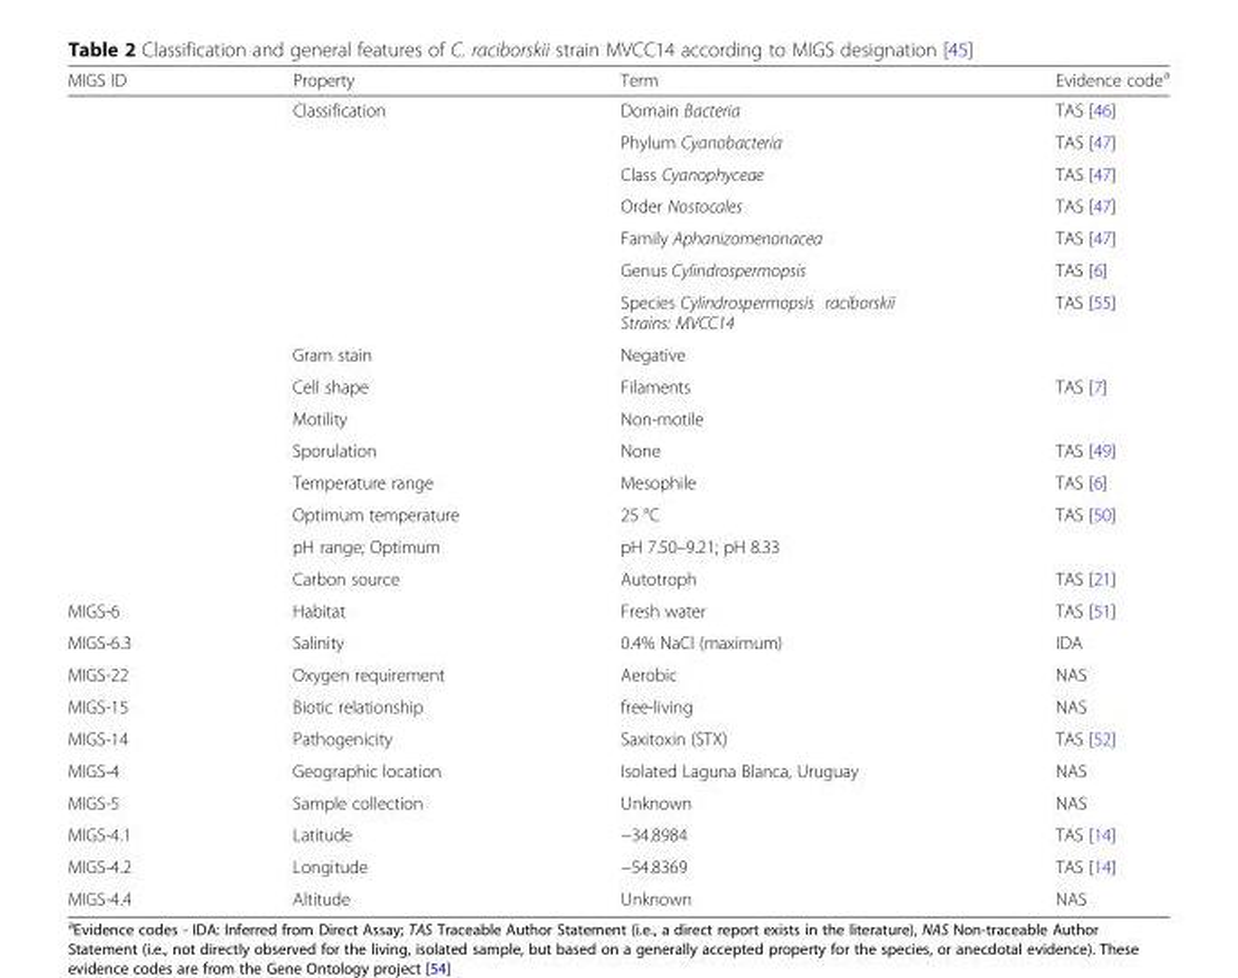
<table><thead><tr><td>MIGS ID</td><td>Property</td><td>Term</td><td>Evidence code<sup>a</sup></td></tr></thead><tbody><tr><td rowspan="15"></td><td rowspan="7">Classification</td><td>Domain Bacteria</td><td>TAS [46]</td></tr><tr><td>Phylum Cyanobacteria</td><td>TAS [47]</td></tr><tr><td>Class Cyanophyceae</td><td>TAS [47]</td></tr><tr><td>Order Nostocales</td><td>TAS [47]</td></tr><tr><td>Family Aphanizomenonacea</td><td>TAS [47]</td></tr><tr><td>Genus Cylindrospermopsis</td><td>TAS [6]</td></tr><tr><td>Species Cylindrospermopsis raciborskii Strains: MVCC14</td><td>TAS [55]</td></tr><tr><td>Gram stain</td><td>Negative</td><td></td></tr><tr><td>Cell shape</td><td>Filaments</td><td>TAS [7]</td></tr><tr><td>Motility</td><td>Non-motile</td><td></td></tr><tr><td>Sporulation</td><td>None</td><td>TAS [49]</td></tr><tr><td>Temperature range</td><td>Mesophile</td><td>TAS [6]</td></tr><tr><td>Optimum temperature</td><td>25 °C</td><td>TAS [50]</td></tr><tr><td>pH range; Optimum</td><td>pH 7.50–9.21; pH 8.33</td><td></td></tr><tr><td>Carbon source</td><td>Autotroph</td><td>TAS [21]</td></tr><tr><td>MIGS-6</td><td>Habitat</td><td>Fresh water</td><td>TAS [51]</td></tr><tr><td>MIGS-6.3</td><td>Salinity</td><td>0.4% NaCl (maximum)</td><td>IDA</td></tr><tr><td>MIGS-22</td><td>Oxygen requirement</td><td>Aerobic</td><td>NAS</td></tr><tr><td>MIGS-15</td><td>Biotic relationship</td><td>free-living</td><td>NAS</td></tr><tr><td>MIGS-14</td><td>Pathogenicity</td><td>Saxitoxin (STX)</td><td>TAS [52]</td></tr><tr><td>MIGS-4</td><td>Geographic location</td><td>Isolated Laguna Blanca, Uruguay</td><td>NAS</td></tr><tr><td>MIGS-5</td><td>Sample collection</td><td>Unknown</td><td>NAS</td></tr><tr><td>MIGS-4.1</td><td>Latitude</td><td>−34.8984</td><td>TAS [14]</td></tr><tr><td>MIGS-4.2</td><td>Longitude</td><td>−54.8369</td><td>TAS [14]</td></tr><tr><td>MIGS-4.4</td><td>Altitude</td><td>Unknown</td><td>NAS</td></tr></tbody></table>